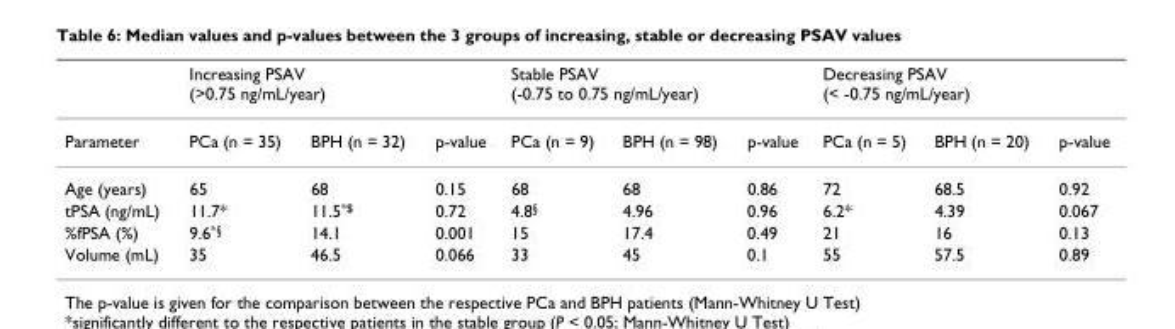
<table><thead><tr><td rowspan="2">Parameter</td><td colspan="3">Increasing PSAV (&gt;0.75 ng/mL/year)</td><td colspan="3">Stable PSAV (-0.75 to 0.75 ng/mL/year)</td><td colspan="3">Decreasing PSAV (&lt; -0.75 ng/mL/year)</td></tr><tr><td>PCa (n = 35)</td><td>BPH (n = 32)</td><td>p-value</td><td>PCa (n = 9)</td><td>BPH (n = 98)</td><td>p-value</td><td>PCa (n = 5)</td><td>BPH (n = 20)</td><td>p-value</td></tr></thead><tbody><tr><td>Age (years)</td><td>65</td><td>68</td><td>0.15</td><td>68</td><td>68</td><td>0.86</td><td>72</td><td>68.5</td><td>0.92</td></tr><tr><td>tPSA (ng/mL)</td><td>11.7*</td><td>11.5<sup>*$</sup></td><td>0.72</td><td>4.8<sup>§</sup></td><td>4.96</td><td>0.96</td><td>6.2*</td><td>4.39</td><td>0.067</td></tr><tr><td>%fPSA (%)</td><td>9.6<sup>*§</sup></td><td>14.1</td><td>0.001</td><td>15</td><td>17.4</td><td>0.49</td><td>21</td><td>16</td><td>0.13</td></tr><tr><td>Volume (mL)</td><td>35</td><td>46.5</td><td>0.066</td><td>33</td><td>45</td><td>0.1</td><td>55</td><td>57.5</td><td>0.89</td></tr></tbody></table>